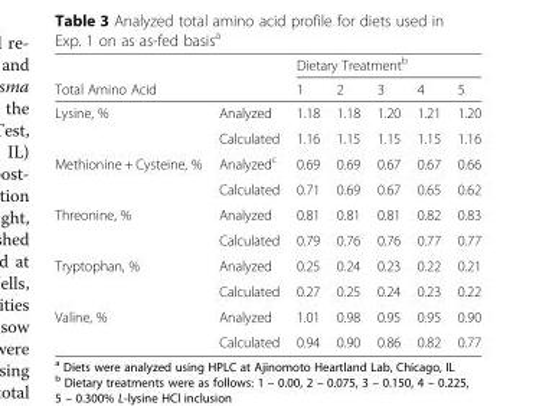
<table><thead><tr><td rowspan="2">Total Amino Acid</td><td rowspan="2"></td><td colspan="5">Dietary Treatment<sup>b</sup></td></tr><tr><td>1</td><td>2</td><td>3</td><td>4</td><td>5</td></tr></thead><tbody><tr><td rowspan="2">Lysine, %</td><td>Analyzed</td><td>1.18</td><td>1.18</td><td>1.20</td><td>1.21</td><td>1.20</td></tr><tr><td>Calculated</td><td>1.16</td><td>1.15</td><td>1.15</td><td>1.15</td><td>1.16</td></tr><tr><td rowspan="2">Methionine + Cysteine, %</td><td>Analyzed<sup>c</sup></td><td>0.69</td><td>0.69</td><td>0.67</td><td>0.67</td><td>0.66</td></tr><tr><td>Calculated</td><td>0.71</td><td>0.69</td><td>0.67</td><td>0.65</td><td>0.62</td></tr><tr><td rowspan="2">Threonine, %</td><td>Analyzed</td><td>0.81</td><td>0.81</td><td>0.81</td><td>0.82</td><td>0.83</td></tr><tr><td>Calculated</td><td>0.79</td><td>0.76</td><td>0.76</td><td>0.77</td><td>0.77</td></tr><tr><td rowspan="2">Tryptophan, %</td><td>Analyzed</td><td>0.25</td><td>0.24</td><td>0.23</td><td>0.22</td><td>0.21</td></tr><tr><td>Calculated</td><td>0.27</td><td>0.25</td><td>0.24</td><td>0.23</td><td>0.22</td></tr><tr><td rowspan="2">Valine, %</td><td>Analyzed</td><td>1.01</td><td>0.98</td><td>0.95</td><td>0.95</td><td>0.90</td></tr><tr><td>Calculated</td><td>0.94</td><td>0.90</td><td>0.86</td><td>0.82</td><td>0.77</td></tr></tbody></table>